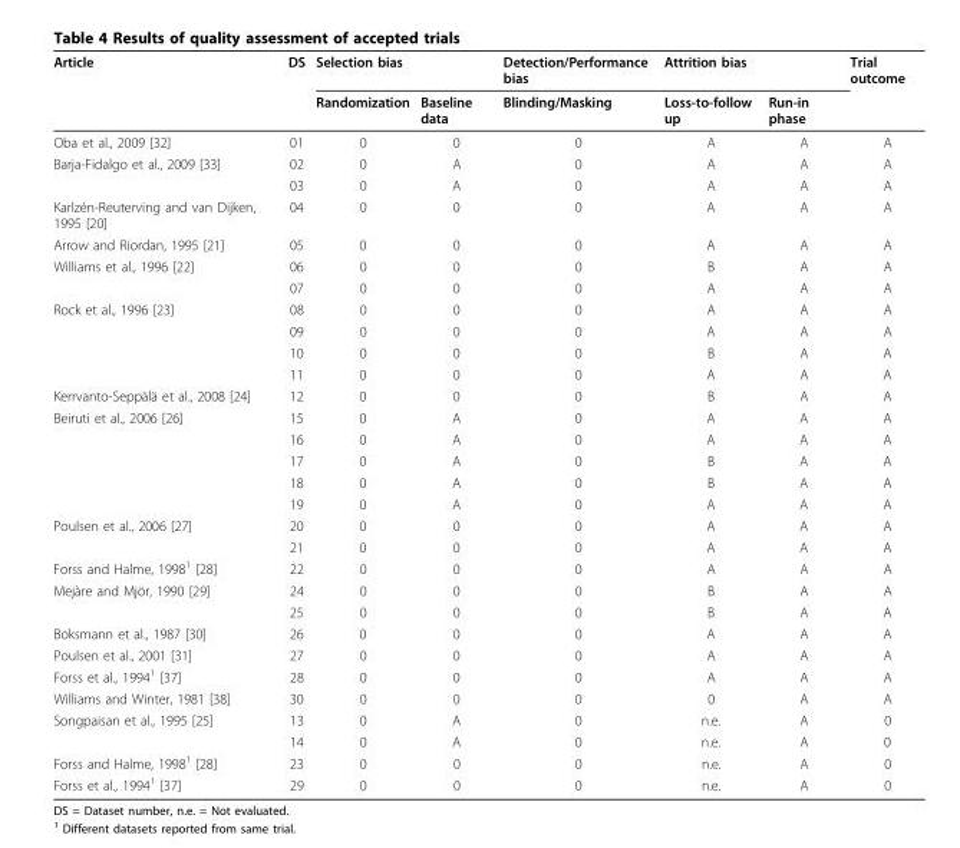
<table><thead><tr><td rowspan="2">Article</td><td rowspan="2">DS</td><td colspan="2">Selection bias</td><td rowspan="2">Detection/Performance bias Blinding/Masking</td><td colspan="2">Attrition bias</td><td rowspan="2">Trial outcome</td></tr><tr><td>Randomization</td><td>Baseline data</td><td>Loss-to-follow up</td><td>Run-in phase</td></tr></thead><tbody><tr><td>Oba et al., 2009 [32]</td><td>01</td><td>0</td><td>0</td><td>0</td><td>A</td><td>A</td><td>A</td></tr><tr><td rowspan="2">Barja-Fidalgo et al., 2009 [33]</td><td>02</td><td>0</td><td>A</td><td>0</td><td>A</td><td>A</td><td>A</td></tr><tr><td>03</td><td>0</td><td>A</td><td>0</td><td>A</td><td>A</td><td>A</td></tr><tr><td>Karlzén-Reuterving and van Dijken, 1995 [20]</td><td>04</td><td>0</td><td>0</td><td>0</td><td>A</td><td>A</td><td>A</td></tr><tr><td>Arrow and Riordan, 1995 [21]</td><td>05</td><td>0</td><td>0</td><td>0</td><td>A</td><td>A</td><td>A</td></tr><tr><td rowspan="2">Williams et al., 1996 [22]</td><td>06</td><td>0</td><td>0</td><td>0</td><td>B</td><td>A</td><td>A</td></tr><tr><td>07</td><td>0</td><td>0</td><td>0</td><td>A</td><td>A</td><td>A</td></tr><tr><td rowspan="4">Rock et al., 1996 [23]</td><td>08</td><td>0</td><td>0</td><td>0</td><td>A</td><td>A</td><td>A</td></tr><tr><td>09</td><td>0</td><td>0</td><td>0</td><td>A</td><td>A</td><td>A</td></tr><tr><td>10</td><td>0</td><td>0</td><td>0</td><td>B</td><td>A</td><td>A</td></tr><tr><td>11</td><td>0</td><td>0</td><td>0</td><td>A</td><td>A</td><td>A</td></tr><tr><td>Kerrvanto-Seppälä et al., 2008 [24]</td><td>12</td><td>0</td><td>0</td><td>0</td><td>B</td><td>A</td><td>A</td></tr><tr><td rowspan="5">Beiruti et al., 2006 [26]</td><td>15</td><td>0</td><td>A</td><td>0</td><td>A</td><td>A</td><td>A</td></tr><tr><td>16</td><td>0</td><td>A</td><td>0</td><td>A</td><td>A</td><td>A</td></tr><tr><td>17</td><td>0</td><td>A</td><td>0</td><td>B</td><td>A</td><td>A</td></tr><tr><td>18</td><td>0</td><td>A</td><td>0</td><td>B</td><td>A</td><td>A</td></tr><tr><td>19</td><td>0</td><td>A</td><td>0</td><td>A</td><td>A</td><td>A</td></tr><tr><td rowspan="2">Poulsen et al., 2006 [27]</td><td>20</td><td>0</td><td>0</td><td>0</td><td>A</td><td>A</td><td>A</td></tr><tr><td>21</td><td>0</td><td>0</td><td>0</td><td>A</td><td>A</td><td>A</td></tr><tr><td>Forss and Halme, 1998<sup>1</sup> [28]</td><td>22</td><td>0</td><td>0</td><td>0</td><td>A</td><td>A</td><td>A</td></tr><tr><td rowspan="2">Mejàre and Mjör, 1990 [29]</td><td>24</td><td>0</td><td>0</td><td>0</td><td>B</td><td>A</td><td>A</td></tr><tr><td>25</td><td>0</td><td>0</td><td>0</td><td>B</td><td>A</td><td>A</td></tr><tr><td>Boksmann et al., 1987 [30]</td><td>26</td><td>0</td><td>0</td><td>0</td><td>A</td><td>A</td><td>A</td></tr><tr><td>Poulsen et al., 2001 [31]</td><td>27</td><td>0</td><td>0</td><td>0</td><td>A</td><td>A</td><td>A</td></tr><tr><td>Forss et al., 1994<sup>1</sup> [37]</td><td>28</td><td>0</td><td>0</td><td>0</td><td>A</td><td>A</td><td>A</td></tr><tr><td>Williams and Winter, 1981 [38]</td><td>30</td><td>0</td><td>0</td><td>0</td><td>0</td><td>A</td><td>A</td></tr><tr><td rowspan="2">Songpaisan et al., 1995 [25]</td><td>13</td><td>0</td><td>A</td><td>0</td><td>n.e.</td><td>A</td><td>0</td></tr><tr><td>14</td><td>0</td><td>A</td><td>0</td><td>n.e.</td><td>A</td><td>0</td></tr><tr><td>Forss and Halme, 1998<sup>1</sup> [28]</td><td>23</td><td>0</td><td>0</td><td>0</td><td>n.e.</td><td>A</td><td>0</td></tr><tr><td>Forss et al., 1994<sup>1</sup> [37]</td><td>29</td><td>0</td><td>0</td><td>0</td><td>n.e.</td><td>A</td><td>0</td></tr></tbody></table>